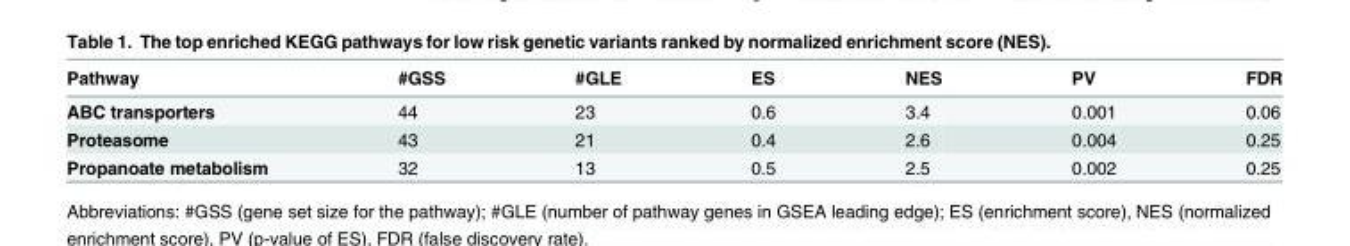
<table><thead><tr><td>Pathway</td><td>#GSS</td><td>#GLE</td><td>ES</td><td>NES</td><td>PV</td><td>FDR</td></tr></thead><tbody><tr><td>ABC transporters</td><td>44</td><td>23</td><td>0.6</td><td>3.4</td><td>0.001</td><td>0.06</td></tr><tr><td>Proteasome</td><td>43</td><td>21</td><td>0.4</td><td>2.6</td><td>0.004</td><td>0.25</td></tr><tr><td>Propanoate metabolism</td><td>32</td><td>13</td><td>0.5</td><td>2.5</td><td>0.002</td><td>0.25</td></tr></tbody></table>